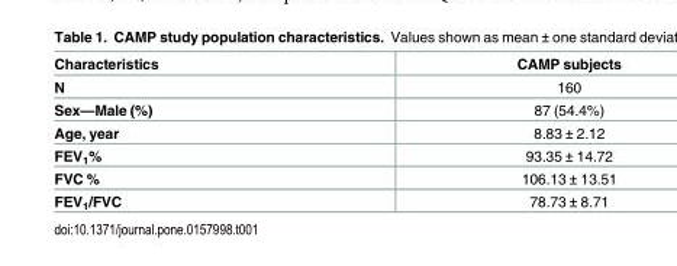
<table><thead><tr><td>Characteristics</td><td>CAMP subjects</td></tr></thead><tbody><tr><td>N</td><td>160</td></tr><tr><td>Sex—Male (%)</td><td>87 (54.4%)</td></tr><tr><td>Age, year</td><td>8.83 ± 2.12</td></tr><tr><td>FEV<sub>1</sub>%</td><td>93.35 ± 14.72</td></tr><tr><td>FVC %</td><td>106.13 ± 13.51</td></tr><tr><td>FEV<sub>1</sub>/FVC</td><td>78.73 ± 8.71</td></tr></tbody></table>